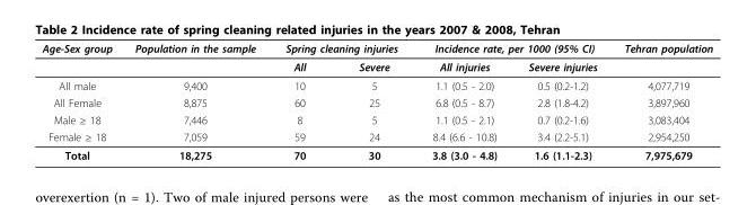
<table><thead><tr><td rowspan="2">Age-Sex group</td><td rowspan="2">Population in the sample</td><td colspan="2">Spring cleaning injuries</td><td colspan="2">Incidence rate, per 1000 (95% CI)</td><td rowspan="2">Tehran population</td></tr><tr><td>All</td><td>Severe</td><td>All injuries</td><td>Severe injuries</td></tr></thead><tbody><tr><td>All male</td><td>9,400</td><td>10</td><td>5</td><td>1.1 (0.5 - 2.0)</td><td>0.5 (0.2-1.2)</td><td>4,077,719</td></tr><tr><td>All Female</td><td>8,875</td><td>60</td><td>25</td><td>6.8 (0.5 - 8.7)</td><td>2.8 (1.8-4.2)</td><td>3,897,960</td></tr><tr><td>Male ≥ 18</td><td>7,446</td><td>8</td><td>5</td><td>1.1 (0.5 - 2.1)</td><td>0.7 (0.2-1.6)</td><td>3,083,404</td></tr><tr><td>Female ≥ 18</td><td>7,059</td><td>59</td><td>24</td><td>8.4 (6.6 - 10.8)</td><td>3.4 (2.2-5.1)</td><td>2,954,250</td></tr><tr><td>Total</td><td>18,275</td><td>70</td><td>30</td><td>3.8 (3.0 - 4.8)</td><td>1.6 (1.1-2.3)</td><td>7,975,679</td></tr></tbody></table>